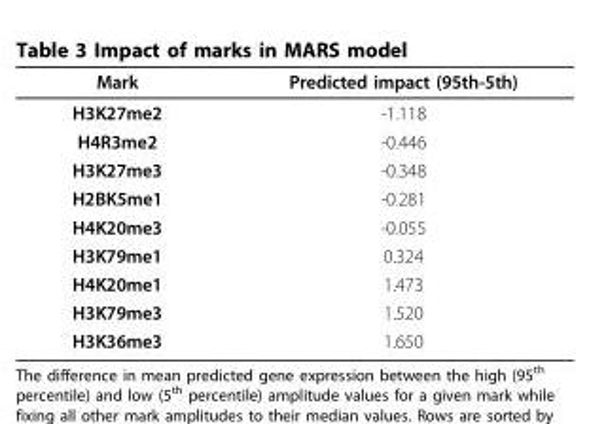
<table><thead><tr><td>Mark</td><td>Predicted impact (95th-5th)</td></tr></thead><tbody><tr><td>H3K27me2</td><td>-1.118</td></tr><tr><td>H4R3me2</td><td>-0.446</td></tr><tr><td>H3K27me3</td><td>-0.348</td></tr><tr><td>H2BK5me1</td><td>-0.281</td></tr><tr><td>H4K20me3</td><td>-0.055</td></tr><tr><td>H3K79me1</td><td>0.324</td></tr><tr><td>H4K20me1</td><td>1.473</td></tr><tr><td>H3K79me3</td><td>1.520</td></tr><tr><td>H3K36me3</td><td>1.650</td></tr></tbody></table>